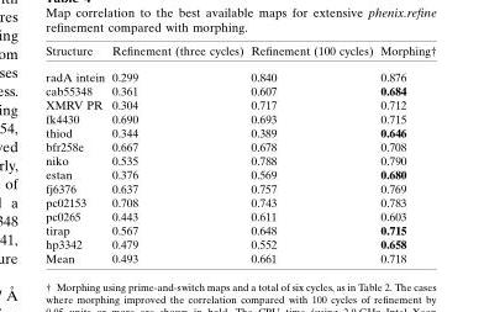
<table><thead><tr><td>Structure</td><td>Refinement (three cycles)</td><td>Refinement (100 cycles)</td><td>Morphing†</td></tr></thead><tbody><tr><td>radA intein</td><td>0.299</td><td>0.840</td><td>0.876</td></tr><tr><td>cab55348</td><td>0.361</td><td>0.607</td><td>0.684</td></tr><tr><td>XMRV PR</td><td>0.304</td><td>0.717</td><td>0.712</td></tr><tr><td>fk4430</td><td>0.690</td><td>0.693</td><td>0.715</td></tr><tr><td>thiod</td><td>0.344</td><td>0.389</td><td>0.646</td></tr><tr><td>bfr258e</td><td>0.667</td><td>0.678</td><td>0.708</td></tr><tr><td>niko</td><td>0.535</td><td>0.788</td><td>0.790</td></tr><tr><td>estan</td><td>0.376</td><td>0.569</td><td>0.680</td></tr><tr><td>fj6376</td><td>0.637</td><td>0.757</td><td>0.769</td></tr><tr><td>pc02153</td><td>0.708</td><td>0.743</td><td>0.783</td></tr><tr><td>pc0265</td><td>0.443</td><td>0.611</td><td>0.603</td></tr><tr><td>tirap</td><td>0.567</td><td>0.648</td><td>0.715</td></tr><tr><td>hp3342</td><td>0.479</td><td>0.552</td><td>0.658</td></tr><tr><td>Mean</td><td>0.493</td><td>0.661</td><td>0.718</td></tr></tbody></table>